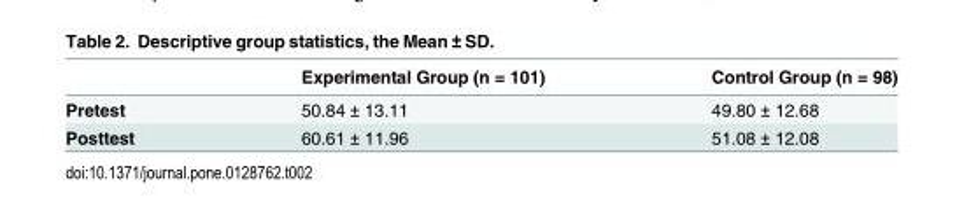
<table><thead><tr><td></td><td>Experimental Group (n = 101)</td><td>Control Group (n = 98)</td></tr></thead><tbody><tr><td>Pretest</td><td>50.84 ± 13.11</td><td>49.80 ± 12.68</td></tr><tr><td>Posttest</td><td>60.61 ± 11.96</td><td>51.08 ± 12.08</td></tr></tbody></table>